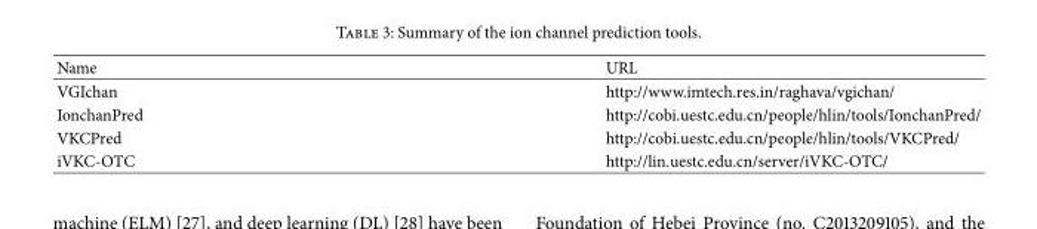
<table><thead><tr><td>Name</td><td>URL</td></tr></thead><tbody><tr><td>VGIchan</td><td>http://www.imtech.res.in/raghava/vgichan/</td></tr><tr><td>IonchanPred</td><td>http://cobi.uestc.edu.cn/people/hlin/tools/IonchanPred/</td></tr><tr><td>VKCPred</td><td>http://cobi.uestc.edu.cn/people/hlin/tools/VKCPred/</td></tr><tr><td>iVKC-OTC</td><td>http://lin.uestc.edu.cn/server/iVKC-OTC/</td></tr></tbody></table>